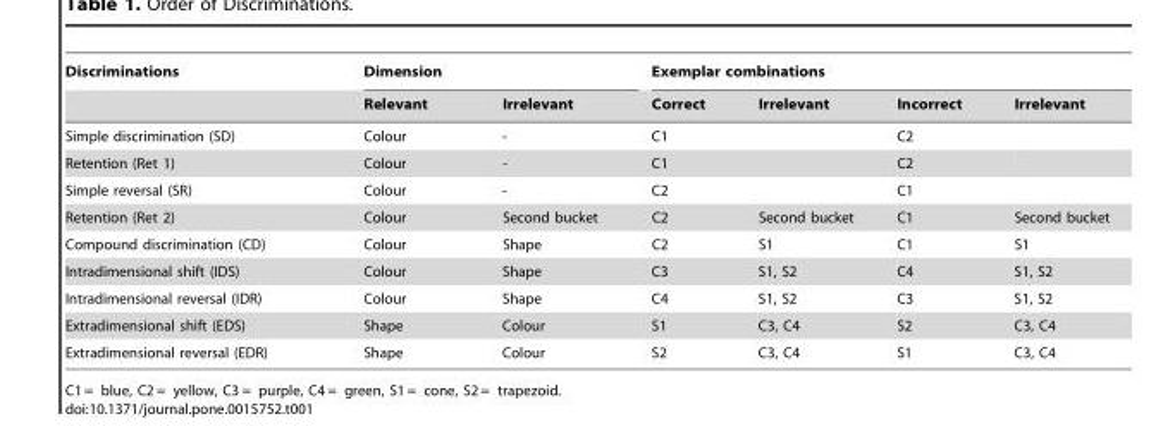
<table><thead><tr><td rowspan="2">Discriminations</td><td colspan="2">Dimension</td><td colspan="4">Exemplar combinations</td></tr><tr><td>Relevant</td><td>Irrelevant</td><td>Correct</td><td>Irrelevant</td><td>Incorrect</td><td>Irrelevant</td></tr></thead><tbody><tr><td>Simple discrimination (SD)</td><td>Colour</td><td>-</td><td>C1</td><td></td><td>C2</td><td></td></tr><tr><td>Retention (Ret 1)</td><td>Colour</td><td>-</td><td>C1</td><td></td><td>C2</td><td></td></tr><tr><td>Simple reversal (SR)</td><td>Colour</td><td>-</td><td>C2</td><td></td><td>C1</td><td></td></tr><tr><td>Retention (Ret 2)</td><td>Colour</td><td>Second bucket</td><td>C2</td><td>Second bucket</td><td>C1</td><td>Second bucket</td></tr><tr><td>Compound discrimination (CD)</td><td>Colour</td><td>Shape</td><td>C2</td><td>S1</td><td>C1</td><td>S1</td></tr><tr><td>Intradimensional shift (IDS)</td><td>Colour</td><td>Shape</td><td>C3</td><td>S1, S2</td><td>C4</td><td>S1, S2</td></tr><tr><td>Intradimensional reversal (IDR)</td><td>Colour</td><td>Shape</td><td>C4</td><td>S1, S2</td><td>C3</td><td>S1, S2</td></tr><tr><td>Extradimensional shift (EDS)</td><td>Shape</td><td>Colour</td><td>S1</td><td>C3, C4</td><td>S2</td><td>C3, C4</td></tr><tr><td>Extradimensional reversal (EDR)</td><td>Shape</td><td>Colour</td><td>S2</td><td>C3, C4</td><td>S1</td><td>C3, C4</td></tr></tbody></table>